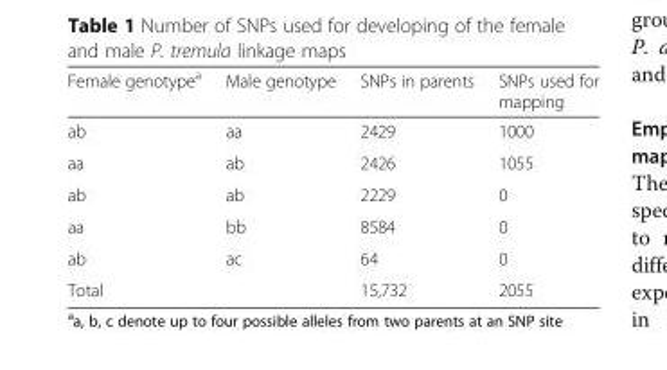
<table><thead><tr><td>Female genotype<sup>a</sup></td><td>Male genotype</td><td>SNPs in parents</td><td>SNPs used for mapping</td></tr></thead><tbody><tr><td>ab</td><td>aa</td><td>2429</td><td>1000</td></tr><tr><td>aa</td><td>ab</td><td>2426</td><td>1055</td></tr><tr><td>ab</td><td>ab</td><td>2229</td><td>0</td></tr><tr><td>aa</td><td>bb</td><td>8584</td><td>0</td></tr><tr><td>ab</td><td>ac</td><td>64</td><td>0</td></tr><tr><td colspan="2">Total</td><td>15,732</td><td>2055</td></tr></tbody></table>